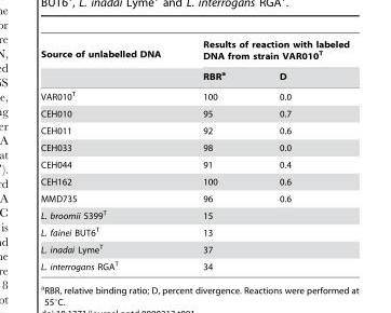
<table><thead><tr><td rowspan="2">Source of unlabelled DNA</td><td colspan="2">Results of reaction with labeled DNA from strain VAR010<sup>T</sup></td></tr><tr><td>RBR<sup>a</sup></td><td>D</td></tr></thead><tbody><tr><td>VAR010<sup>T</sup></td><td>100</td><td>0.0</td></tr><tr><td>CEH010</td><td>95</td><td>0.7</td></tr><tr><td>CEH011</td><td>92</td><td>0.6</td></tr><tr><td>CEH033</td><td>98</td><td>0.0</td></tr><tr><td>CEH044</td><td>91</td><td>0.4</td></tr><tr><td>CEH162</td><td>100</td><td>0.6</td></tr><tr><td>MMD735</td><td>96</td><td>0.6</td></tr><tr><td>L. broomii 5399<sup>T</sup></td><td>15</td><td></td></tr><tr><td>L. fainei BUT6<sup>T</sup></td><td>13</td><td></td></tr><tr><td>L. inadai Lyme<sup>T</sup></td><td>37</td><td></td></tr><tr><td>L. interrogans RGA<sup>T</sup></td><td>34</td><td></td></tr></tbody></table>